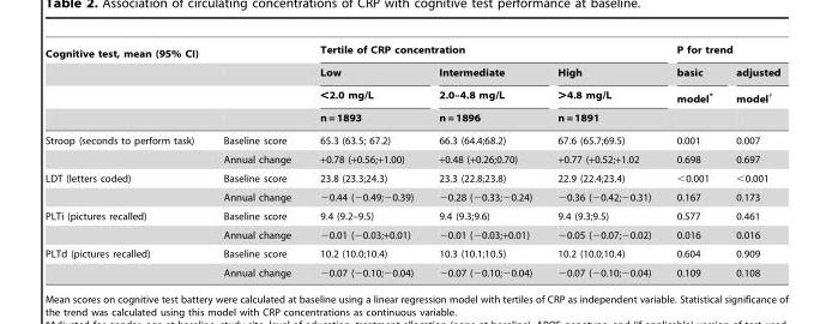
<table><thead><tr><td rowspan="4">Cognitive test, mean (95% CI)</td><td rowspan="4"></td><td colspan="3">Tertile of CRP concentration</td><td colspan="2">P for trend</td></tr><tr><td rowspan="3">Low &lt;2.0 mg/L n = 1893</td><td rowspan="3">Intermediate 2.0–4.8 mg/L n = 1896</td><td rowspan="3">High &gt;4.8 mg/L n = 1891</td><td rowspan="3">basic model*</td><td rowspan="3">adjusted model†</td></tr><tr></tr><tr></tr></thead><tbody><tr><td rowspan="2">Stroop (seconds to perform task)</td><td>Baseline score</td><td>65.3 (63.5; 67.2)</td><td>66.3 (64.4;68.2)</td><td>67.6 (65.7;69.5)</td><td>0.001</td><td>0.007</td></tr><tr><td>Annual change</td><td>+0.78 (+0.56;+1.00)</td><td>+0.48 (+0.26;0.70)</td><td>+0.77 (+0.52;+1.02</td><td>0.698</td><td>0.697</td></tr><tr><td rowspan="2">LDT (letters coded)</td><td>Baseline score</td><td>23.8 (23.3;24.3)</td><td>23.3 (22.8;23.8)</td><td>22.9 (22.4;23.4)</td><td>&lt;0.001</td><td>&lt;0.001</td></tr><tr><td>Annual change</td><td>−0.44 (−0.49;−0.39)</td><td>−0.28 (−0.33;−0.24)</td><td>−0.36 (−0.42;−0.31)</td><td>0.167</td><td>0.173</td></tr><tr><td rowspan="2">PLTi (pictures recalled)</td><td>Baseline score</td><td>9.4 (9.2–9.5)</td><td>9.4 (9.3;9.6)</td><td>9.4 (9.3;9.5)</td><td>0.577</td><td>0.461</td></tr><tr><td>Annual change</td><td>−0.01 (−0.03;+0.01)</td><td>−0.01 (−0.03;+0.01)</td><td>−0.05 (−0.07;−0.02)</td><td>0.016</td><td>0.016</td></tr><tr><td rowspan="2">PLTd (pictures recalled)</td><td>Baseline score</td><td>10.2 (10.0;10.4)</td><td>10.3 (10.1;10.5)</td><td>10.2 (10.0;10.4)</td><td>0.604</td><td>0.909</td></tr><tr><td>Annual change</td><td>−0.07 (−0.10;−0.04)</td><td>−0.07 (−0.10;−0.04)</td><td>−0.07 (−0.10;−0.04)</td><td>0.109</td><td>0.108</td></tr></tbody></table>